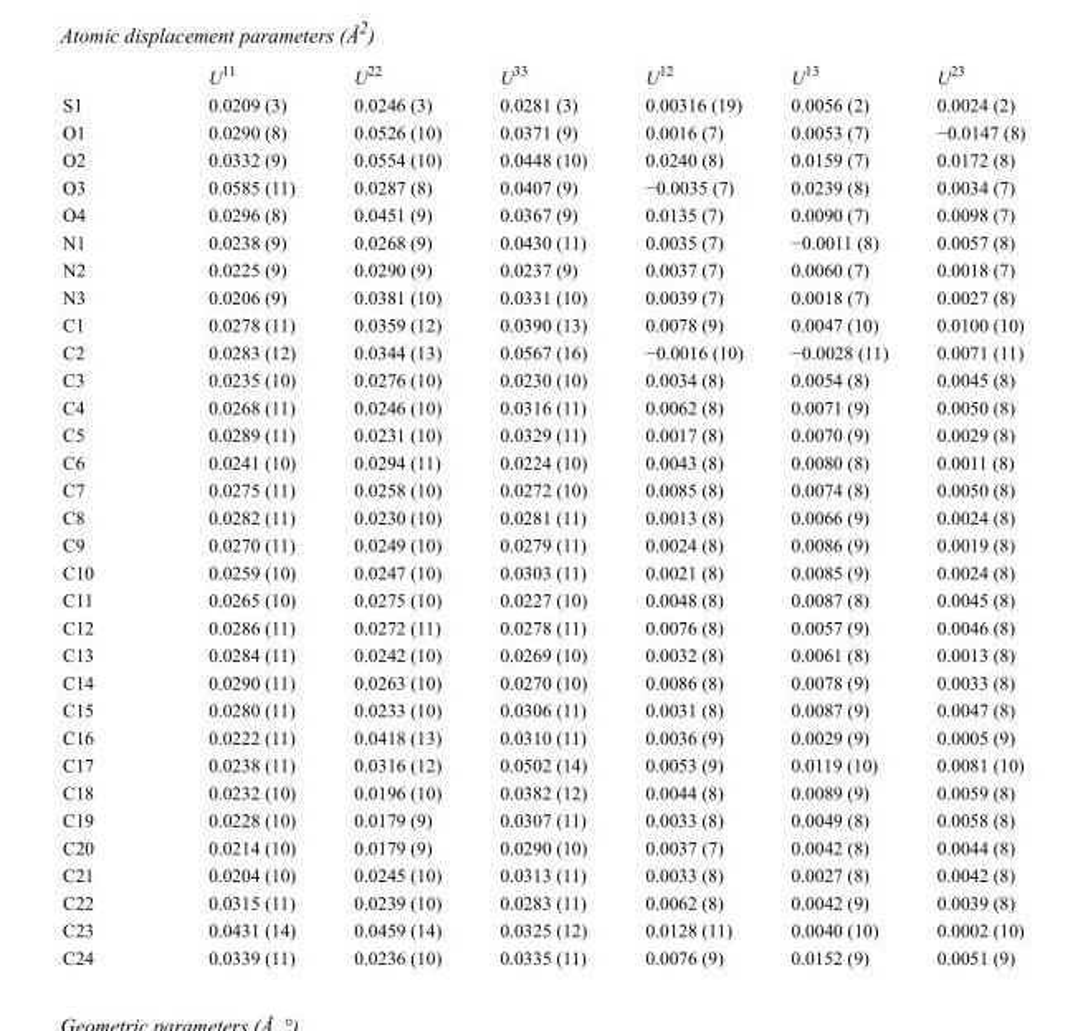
<table><thead><tr><td></td><td>U<sup>11</sup></td><td>U<sup>22</sup></td><td>U<sup>33</sup></td><td>U<sup>12</sup></td><td>U<sup>13</sup></td><td>U<sup>23</sup></td></tr></thead><tbody><tr><td>S1</td><td>0.0209 (3)</td><td>0.0246 (3)</td><td>0.0281 (3)</td><td>0.00316 (19)</td><td>0.0056 (2)</td><td>0.0024 (2)</td></tr><tr><td>O1</td><td>0.0290 (8)</td><td>0.0526 (10)</td><td>0.0371 (9)</td><td>0.0016 (7)</td><td>0.0053 (7)</td><td>−0.0147 (8)</td></tr><tr><td>O2</td><td>0.0332 (9)</td><td>0.0554 (10)</td><td>0.0448 (10)</td><td>0.0240 (8)</td><td>0.0159 (7)</td><td>0.0172 (8)</td></tr><tr><td>O3</td><td>0.0585 (11)</td><td>0.0287 (8)</td><td>0.0407 (9)</td><td>−0.0035 (7)</td><td>0.0239 (8)</td><td>0.0034 (7)</td></tr><tr><td>O4</td><td>0.0296 (8)</td><td>0.0451 (9)</td><td>0.0367 (9)</td><td>0.0135 (7)</td><td>0.0090 (7)</td><td>0.0098 (7)</td></tr><tr><td>N1</td><td>0.0238 (9)</td><td>0.0268 (9)</td><td>0.0430 (11)</td><td>0.0035 (7)</td><td>−0.0011 (8)</td><td>0.0057 (8)</td></tr><tr><td>N2</td><td>0.0225 (9)</td><td>0.0290 (9)</td><td>0.0237 (9)</td><td>0.0037 (7)</td><td>0.0060 (7)</td><td>0.0018 (7)</td></tr><tr><td>N3</td><td>0.0206 (9)</td><td>0.0381 (10)</td><td>0.0331 (10)</td><td>0.0039 (7)</td><td>0.0018 (7)</td><td>0.0027 (8)</td></tr><tr><td>C1</td><td>0.0278 (11)</td><td>0.0359 (12)</td><td>0.0390 (13)</td><td>0.0078 (9)</td><td>0.0047 (10)</td><td>0.0100 (10)</td></tr><tr><td>C2</td><td>0.0283 (12)</td><td>0.0344 (13)</td><td>0.0567 (16)</td><td>−0.0016 (10)</td><td>−0.0028 (11)</td><td>0.0071 (11)</td></tr><tr><td>C3</td><td>0.0235 (10)</td><td>0.0276 (10)</td><td>0.0230 (10)</td><td>0.0034 (8)</td><td>0.0054 (8)</td><td>0.0045 (8)</td></tr><tr><td>C4</td><td>0.0268 (11)</td><td>0.0246 (10)</td><td>0.0316 (11)</td><td>0.0062 (8)</td><td>0.0071 (9)</td><td>0.0050 (8)</td></tr><tr><td>C5</td><td>0.0289 (11)</td><td>0.0231 (10)</td><td>0.0329 (11)</td><td>0.0017 (8)</td><td>0.0070 (9)</td><td>0.0029 (8)</td></tr><tr><td>C6</td><td>0.0241 (10)</td><td>0.0294 (11)</td><td>0.0224 (10)</td><td>0.0043 (8)</td><td>0.0080 (8)</td><td>0.0011 (8)</td></tr><tr><td>C7</td><td>0.0275 (11)</td><td>0.0258 (10)</td><td>0.0272 (10)</td><td>0.0085 (8)</td><td>0.0074 (8)</td><td>0.0050 (8)</td></tr><tr><td>C8</td><td>0.0282 (11)</td><td>0.0230 (10)</td><td>0.0281 (11)</td><td>0.0013 (8)</td><td>0.0066 (9)</td><td>0.0024 (8)</td></tr><tr><td>C9</td><td>0.0270 (11)</td><td>0.0249 (10)</td><td>0.0279 (11)</td><td>0.0024 (8)</td><td>0.0086 (9)</td><td>0.0019 (8)</td></tr><tr><td>C10</td><td>0.0259 (10)</td><td>0.0247 (10)</td><td>0.0303 (11)</td><td>0.0021 (8)</td><td>0.0085 (9)</td><td>0.0024 (8)</td></tr><tr><td>C11</td><td>0.0265 (10)</td><td>0.0275 (10)</td><td>0.0227 (10)</td><td>0.0048 (8)</td><td>0.0087 (8)</td><td>0.0045 (8)</td></tr><tr><td>C12</td><td>0.0286 (11)</td><td>0.0272 (11)</td><td>0.0278 (11)</td><td>0.0076 (8)</td><td>0.0057 (9)</td><td>0.0046 (8)</td></tr><tr><td>C13</td><td>0.0284 (11)</td><td>0.0242 (10)</td><td>0.0269 (10)</td><td>0.0032 (8)</td><td>0.0061 (8)</td><td>0.0013 (8)</td></tr><tr><td>C14</td><td>0.0290 (11)</td><td>0.0263 (10)</td><td>0.0270 (10)</td><td>0.0086 (8)</td><td>0.0078 (9)</td><td>0.0033 (8)</td></tr><tr><td>C15</td><td>0.0280 (11)</td><td>0.0233 (10)</td><td>0.0306 (11)</td><td>0.0031 (8)</td><td>0.0087 (9)</td><td>0.0047 (8)</td></tr><tr><td>C16</td><td>0.0222 (11)</td><td>0.0418 (13)</td><td>0.0310 (11)</td><td>0.0036 (9)</td><td>0.0029 (9)</td><td>0.0005 (9)</td></tr><tr><td>C17</td><td>0.0238 (11)</td><td>0.0316 (12)</td><td>0.0502 (14)</td><td>0.0053 (9)</td><td>0.0119 (10)</td><td>0.0081 (10)</td></tr><tr><td>C18</td><td>0.0232 (10)</td><td>0.0196 (10)</td><td>0.0382 (12)</td><td>0.0044 (8)</td><td>0.0089 (9)</td><td>0.0059 (8)</td></tr><tr><td>C19</td><td>0.0228 (10)</td><td>0.0179 (9)</td><td>0.0307 (11)</td><td>0.0033 (8)</td><td>0.0049 (8)</td><td>0.0058 (8)</td></tr><tr><td>C20</td><td>0.0214 (10)</td><td>0.0179 (9)</td><td>0.0290 (10)</td><td>0.0037 (7)</td><td>0.0042 (8)</td><td>0.0044 (8)</td></tr><tr><td>C21</td><td>0.0204 (10)</td><td>0.0245 (10)</td><td>0.0313 (11)</td><td>0.0033 (8)</td><td>0.0027 (8)</td><td>0.0042 (8)</td></tr><tr><td>C22</td><td>0.0315 (11)</td><td>0.0239 (10)</td><td>0.0283 (11)</td><td>0.0062 (8)</td><td>0.0042 (9)</td><td>0.0039 (8)</td></tr><tr><td>C23</td><td>0.0431 (14)</td><td>0.0459 (14)</td><td>0.0325 (12)</td><td>0.0128 (11)</td><td>0.0040 (10)</td><td>0.0002 (10)</td></tr><tr><td>C24</td><td>0.0339 (11)</td><td>0.0236 (10)</td><td>0.0335 (11)</td><td>0.0076 (9)</td><td>0.0152 (9)</td><td>0.0051 (9)</td></tr></tbody></table>